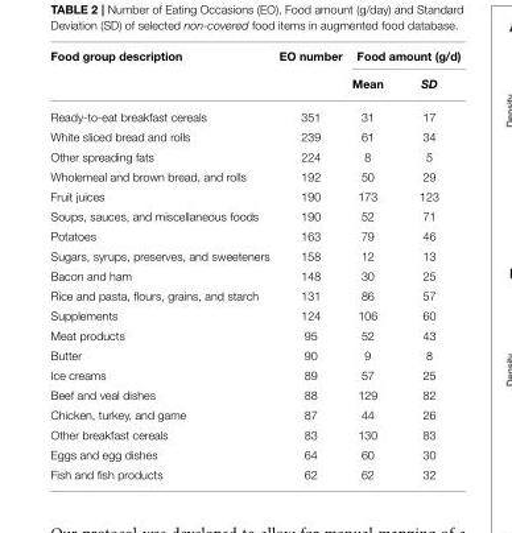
<table><thead><tr><td rowspan="2">Food group description</td><td rowspan="2">EO number</td><td colspan="2">Food amount (g/d)</td></tr><tr><td>Mean</td><td>SD</td></tr></thead><tbody><tr><td>Ready-to-eat breakfast cereals</td><td>351</td><td>31</td><td>17</td></tr><tr><td>White sliced bread and rolls</td><td>239</td><td>61</td><td>34</td></tr><tr><td>Other spreading fats</td><td>224</td><td>8</td><td>5</td></tr><tr><td>Wholemeal and brown bread, and rolls</td><td>192</td><td>50</td><td>29</td></tr><tr><td>Fruit juices</td><td>190</td><td>173</td><td>123</td></tr><tr><td>Soups, sauces, and miscellaneous foods</td><td>190</td><td>52</td><td>71</td></tr><tr><td>Potatoes</td><td>163</td><td>79</td><td>46</td></tr><tr><td>Sugars, syrups, preserves, and sweeteners</td><td>158</td><td>12</td><td>13</td></tr><tr><td>Bacon and ham</td><td>148</td><td>30</td><td>25</td></tr><tr><td>Rice and pasta, flours, grains, and starch</td><td>131</td><td>86</td><td>57</td></tr><tr><td>Supplements</td><td>124</td><td>106</td><td>60</td></tr><tr><td>Meat products</td><td>95</td><td>52</td><td>43</td></tr><tr><td>Butter</td><td>90</td><td>9</td><td>8</td></tr><tr><td>Ice creams</td><td>89</td><td>57</td><td>25</td></tr><tr><td>Beef and veal dishes</td><td>88</td><td>129</td><td>82</td></tr><tr><td>Chicken, turkey, and game</td><td>87</td><td>44</td><td>26</td></tr><tr><td>Other breakfast cereals</td><td>83</td><td>130</td><td>83</td></tr><tr><td>Eggs and egg dishes</td><td>64</td><td>60</td><td>30</td></tr><tr><td>Fish and fish products</td><td>62</td><td>62</td><td>32</td></tr></tbody></table>